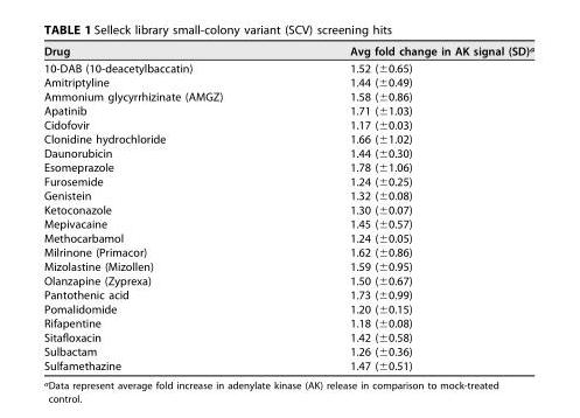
<table><thead><tr><td>Drug</td><td>Avg fold change in AK signal (SD)<sup>a</sup></td></tr></thead><tbody><tr><td>10-DAB (10-deacetylbaccatin)</td><td>1.52 (±0.65)</td></tr><tr><td>Amitriptyline</td><td>1.44 (±0.49)</td></tr><tr><td>Ammonium glycyrrhizinate (AMGZ)</td><td>1.58 (±0.86)</td></tr><tr><td>Apatinib</td><td>1.71 (±1.03)</td></tr><tr><td>Cidofovir</td><td>1.17 (±0.03)</td></tr><tr><td>Clonidine hydrochloride</td><td>1.66 (±1.02)</td></tr><tr><td>Daunorubicin</td><td>1.44 (±0.30)</td></tr><tr><td>Esomeprazole</td><td>1.78 (±1.06)</td></tr><tr><td>Furosemide</td><td>1.24 (±0.25)</td></tr><tr><td>Genistein</td><td>1.32 (±0.08)</td></tr><tr><td>Ketoconazole</td><td>1.30 (±0.07)</td></tr><tr><td>Mepivacaine</td><td>1.45 (±0.57)</td></tr><tr><td>Methocarbamol</td><td>1.24 (±0.05)</td></tr><tr><td>Milrinone (Primacor)</td><td>1.62 (±0.86)</td></tr><tr><td>Mizolastine (Mizollen)</td><td>1.59 (±0.95)</td></tr><tr><td>Olanzapine (Zyprexa)</td><td>1.50 (±0.67)</td></tr><tr><td>Pantothenic acid</td><td>1.73 (±0.99)</td></tr><tr><td>Pomalidomide</td><td>1.20 (±0.15)</td></tr><tr><td>Rifapentine</td><td>1.18 (±0.08)</td></tr><tr><td>Sitafloxacin</td><td>1.42 (±0.58)</td></tr><tr><td>Sulbactam</td><td>1.26 (±0.36)</td></tr><tr><td>Sulfamethazine</td><td>1.47 (±0.51)</td></tr></tbody></table>